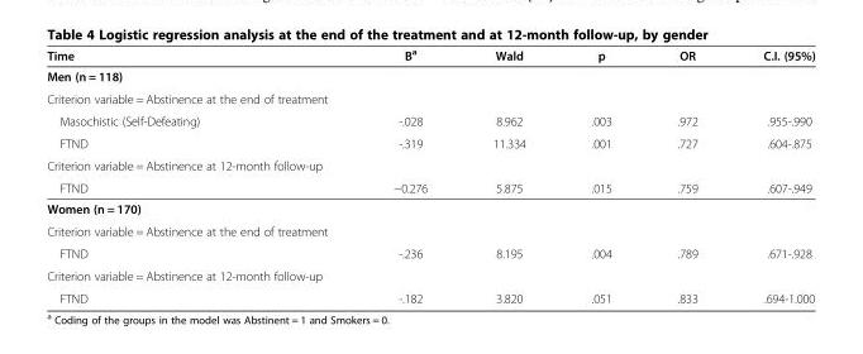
<table><thead><tr><td>Time</td><td>B<sup>a</sup></td><td>Wald</td><td>p</td><td>OR</td><td>C.I. (95%)</td></tr></thead><tbody><tr><td colspan="6">Men (n = 118)</td></tr><tr><td colspan="6">Criterion variable = Abstinence at the end of treatment</td></tr><tr><td>Masochistic (Self-Defeating)</td><td>-.028</td><td>8.962</td><td>.003</td><td>.972</td><td>.955-.990</td></tr><tr><td>FTND</td><td>-.319</td><td>11.334</td><td>.001</td><td>.727</td><td>.604-.875</td></tr><tr><td colspan="6">Criterion variable = Abstinence at 12-month follow-up</td></tr><tr><td>FTND</td><td>−0.276</td><td>5.875</td><td>.015</td><td>.759</td><td>.607-.949</td></tr><tr><td colspan="6">Women (n = 170)</td></tr><tr><td colspan="6">Criterion variable = Abstinence at the end of treatment</td></tr><tr><td>FTND</td><td>-.236</td><td>8.195</td><td>.004</td><td>.789</td><td>.671-.928</td></tr><tr><td colspan="6">Criterion variable = Abstinence at 12-month follow-up</td></tr><tr><td>FTND</td><td>-.182</td><td>3.820</td><td>.051</td><td>.833</td><td>.694-1.000</td></tr></tbody></table>